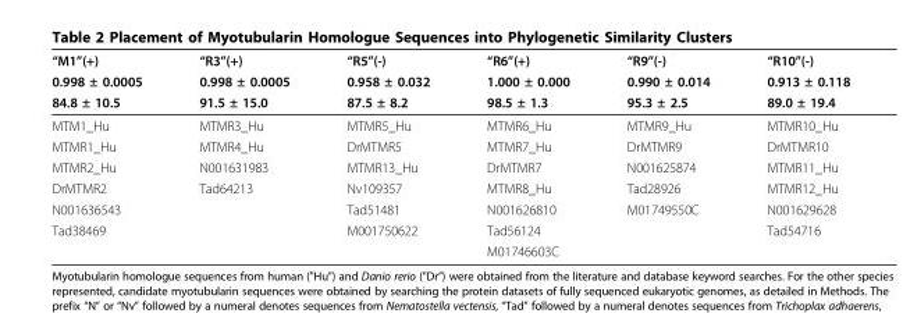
<table><thead><tr><td rowspan="3">“M1”(+) 0.998 ± 0.0005 84.8 ± 10.5</td><td rowspan="3">“R3”(+) 0.998 ± 0.0005 91.5 ± 15.0</td><td rowspan="3">“R5”(-) 0.958 ± 0.032 87.5 ± 8.2</td><td rowspan="3">“R6”(+) 1.000 ± 0.000 98.5 ± 1.3</td><td rowspan="3">“R9”(-) 0.990 ± 0.014 95.3 ± 2.5</td><td rowspan="3">“R10”(-) 0.913 ± 0.118 89.0 ± 19.4</td></tr><tr></tr><tr></tr></thead><tbody><tr><td>MTM1_Hu</td><td>MTMR3_Hu</td><td>MTMR5_Hu</td><td>MTMR6_Hu</td><td>MTMR9_Hu</td><td>MTMR10_Hu</td></tr><tr><td>MTMR1_Hu</td><td>MTMR4_Hu</td><td>DrMTMR5</td><td>MTMR7_Hu</td><td>DrMTMR9</td><td>DrMTMR10</td></tr><tr><td>MTMR2_Hu</td><td>N001631983</td><td>MTMR13_Hu</td><td>DrMTMR7</td><td>N001625874</td><td>MTMR11_Hu</td></tr><tr><td>DrMTMR2</td><td>Tad64213</td><td>Nv109357</td><td>MTMR8_Hu</td><td>Tad28926</td><td>MTMR12_Hu</td></tr><tr><td>N001636543</td><td></td><td>Tad51481</td><td>N001626810</td><td>M01749550C</td><td>N001629628</td></tr><tr><td rowspan="2">Tad38469</td><td></td><td>M001750622</td><td>Tad56124</td><td></td><td>Tad54716</td></tr><tr><td></td><td></td><td>M01746603C</td><td></td><td></td></tr></tbody></table>